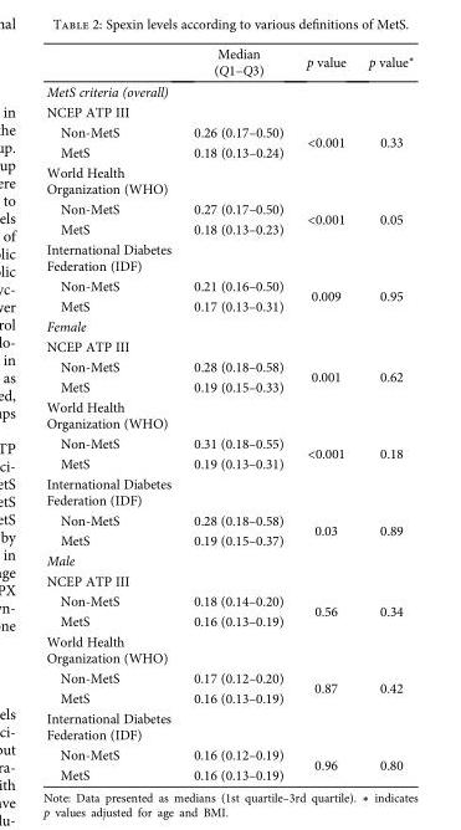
<table><thead><tr><td></td><td>Median (Q1–Q3)</td><td>p value</td><td>p value∗</td></tr></thead><tbody><tr><td colspan="4">MetS criteria (overall)</td></tr><tr><td colspan="4">NCEP ATP III</td></tr><tr><td>Non-MetS</td><td>0.26 (0.17–0.50)</td><td rowspan="2">&lt;0.001</td><td rowspan="2">0.33</td></tr><tr><td>MetS</td><td>0.18 (0.13–0.24)</td></tr><tr><td colspan="4">World Health Organization (WHO)</td></tr><tr><td>Non-MetS</td><td>0.27 (0.17–0.50)</td><td rowspan="2">&lt;0.001</td><td rowspan="2">0.05</td></tr><tr><td>MetS</td><td>0.18 (0.13–0.23)</td></tr><tr><td colspan="4">International Diabetes Federation (IDF)</td></tr><tr><td>Non-MetS</td><td>0.21 (0.16–0.50)</td><td rowspan="2">0.009</td><td rowspan="2">0.95</td></tr><tr><td>MetS</td><td>0.17 (0.13–0.31)</td></tr><tr><td colspan="4">Female</td></tr><tr><td colspan="4">NCEP ATP III</td></tr><tr><td>Non-MetS</td><td>0.28 (0.18–0.58)</td><td rowspan="2">0.001</td><td rowspan="2">0.62</td></tr><tr><td>MetS</td><td>0.19 (0.15–0.33)</td></tr><tr><td colspan="4">World Health Organization (WHO)</td></tr><tr><td>Non-MetS</td><td>0.31 (0.18–0.55)</td><td rowspan="2">&lt;0.001</td><td rowspan="2">0.18</td></tr><tr><td>MetS</td><td>0.19 (0.13–0.31)</td></tr><tr><td colspan="4">International Diabetes Federation (IDF)</td></tr><tr><td>Non-MetS</td><td>0.28 (0.18–0.58)</td><td rowspan="2">0.03</td><td rowspan="2">0.89</td></tr><tr><td>MetS</td><td>0.19 (0.15–0.37)</td></tr><tr><td colspan="4">Male</td></tr><tr><td colspan="4">NCEP ATP III</td></tr><tr><td>Non-MetS</td><td>0.18 (0.14–0.20)</td><td rowspan="2">0.56</td><td rowspan="2">0.34</td></tr><tr><td>MetS</td><td>0.16 (0.13–0.19)</td></tr><tr><td colspan="4">World Health Organization (WHO)</td></tr><tr><td>Non-MetS</td><td>0.17 (0.12–0.20)</td><td rowspan="2">0.87</td><td rowspan="2">0.42</td></tr><tr><td>MetS</td><td>0.16 (0.13–0.19)</td></tr><tr><td colspan="4">International Diabetes Federation (IDF)</td></tr><tr><td>Non-MetS</td><td>0.16 (0.12–0.19)</td><td rowspan="2">0.96</td><td rowspan="2">0.80</td></tr><tr><td>MetS</td><td>0.16 (0.13–0.19)</td></tr></tbody></table>